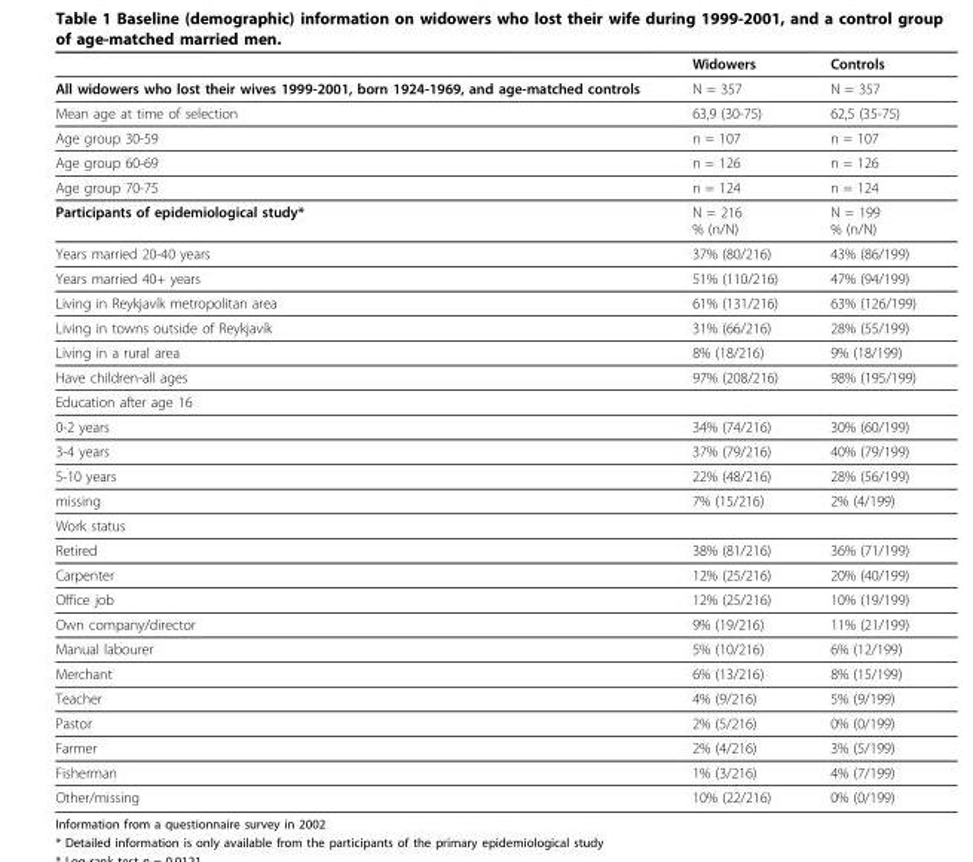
<table><thead><tr><td></td><td>Widowers</td><td>Controls</td></tr></thead><tbody><tr><td>All widowers who lost their wives 1999-2001, born 1924-1969, and age-matched controls</td><td>N = 357</td><td>N = 357</td></tr><tr><td>Mean age at time of selection</td><td>63,9 (30-75)</td><td>62,5 (35-75)</td></tr><tr><td>Age group 30-59</td><td>n = 107</td><td>n = 107</td></tr><tr><td>Age group 60-69</td><td>n = 126</td><td>n = 126</td></tr><tr><td>Age group 70-75</td><td>n = 124</td><td>n = 124</td></tr><tr><td>Participants of epidemiological study*</td><td>N = 216 % (n/N)</td><td>N = 199 % (n/N)</td></tr><tr><td>Years married 20-40 years</td><td>37% (80/216)</td><td>43% (86/199)</td></tr><tr><td>Years married 40+ years</td><td>51% (110/216)</td><td>47% (94/199)</td></tr><tr><td>Living in Reykjavík metropolitan area</td><td>61% (131/216)</td><td>63% (126/199)</td></tr><tr><td>Living in towns outside of Reykjavík</td><td>31% (66/216)</td><td>28% (55/199)</td></tr><tr><td>Living in a rural area</td><td>8% (18/216)</td><td>9% (18/199)</td></tr><tr><td>Have children-all ages</td><td>97% (208/216)</td><td>98% (195/199)</td></tr><tr><td colspan="3">Education after age 16</td></tr><tr><td>0-2 years</td><td>34% (74/216)</td><td>30% (60/199)</td></tr><tr><td>3-4 years</td><td>37% (79/216)</td><td>40% (79/199)</td></tr><tr><td>5-10 years</td><td>22% (48/216)</td><td>28% (56/199)</td></tr><tr><td>missing</td><td>7% (15/216)</td><td>2% (4/199)</td></tr><tr><td colspan="3">Work status</td></tr><tr><td>Retired</td><td>38% (81/216)</td><td>36% (71/199)</td></tr><tr><td>Carpenter</td><td>12% (25/216)</td><td>20% (40/199)</td></tr><tr><td>Office job</td><td>12% (25/216)</td><td>10% (19/199)</td></tr><tr><td>Own company/director</td><td>9% (19/216)</td><td>11% (21/199)</td></tr><tr><td>Manual labourer</td><td>5% (10/216)</td><td>6% (12/199)</td></tr><tr><td>Merchant</td><td>6% (13/216)</td><td>8% (15/199)</td></tr><tr><td>Teacher</td><td>4% (9/216)</td><td>5% (9/199)</td></tr><tr><td>Pastor</td><td>2% (5/216)</td><td>0% (0/199)</td></tr><tr><td>Farmer</td><td>2% (4/216)</td><td>3% (5/199)</td></tr><tr><td>Fisherman</td><td>1% (3/216)</td><td>4% (7/199)</td></tr><tr><td>Other/missing</td><td>10% (22/216)</td><td>0% (0/199)</td></tr></tbody></table>